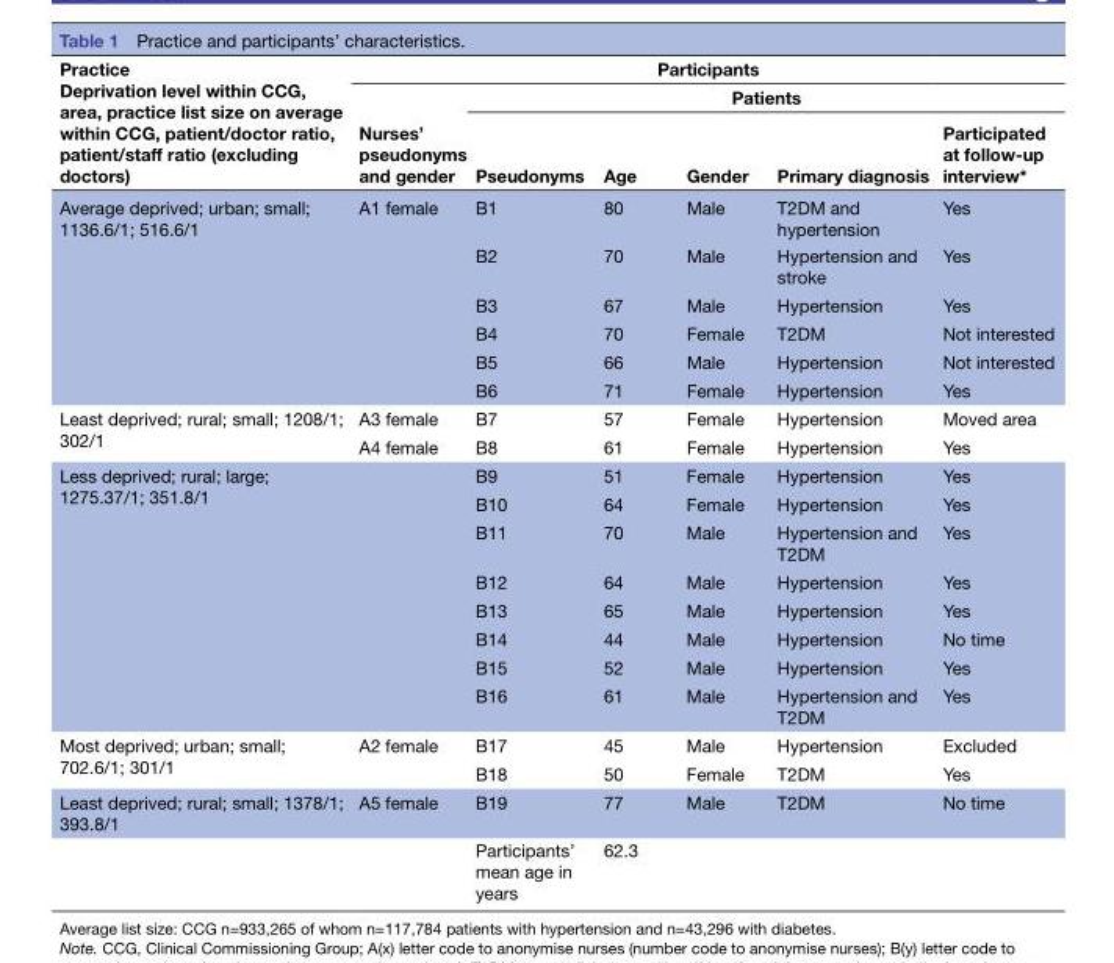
<table><thead><tr><td rowspan="3">Practice Deprivation level within CCG, area, practice list size on average within CCG, patient/doctor ratio, patient/staff ratio (excluding doctors)</td><td colspan="6">Participants</td></tr><tr><td rowspan="2">Nurses’ pseudonyms and gender</td><td colspan="5">Patients</td></tr><tr><td>Pseudonyms</td><td>Age</td><td>Gender</td><td>Primary diagnosis</td><td>Participated at follow-up interview*</td></tr></thead><tbody><tr><td rowspan="6">Average deprived; urban; small; 1136.6/1; 516.6/1</td><td rowspan="6">A1 female</td><td>B1</td><td>80</td><td>Male</td><td>T2DM and hypertension</td><td>Yes</td></tr><tr><td>B2</td><td>70</td><td>Male</td><td>Hypertension and stroke</td><td>Yes</td></tr><tr><td>B3</td><td>67</td><td>Male</td><td>Hypertension</td><td>Yes</td></tr><tr><td>B4</td><td>70</td><td>Female</td><td>T2DM</td><td>Not interested</td></tr><tr><td>B5</td><td>66</td><td>Male</td><td>Hypertension</td><td>Not interested</td></tr><tr><td>B6</td><td>71</td><td>Female</td><td>Hypertension</td><td>Yes</td></tr><tr><td rowspan="2">Least deprived; rural; small; 1208/1; 302/1</td><td>A3 female</td><td>B7</td><td>57</td><td>Female</td><td>Hypertension</td><td>Moved area</td></tr><tr><td>A4 female</td><td>B8</td><td>61</td><td>Female</td><td>Hypertension</td><td>Yes</td></tr><tr><td rowspan="8">Less deprived; rural; large; 1275.37/1; 351.8/1</td><td rowspan="8"></td><td>B9</td><td>51</td><td>Female</td><td>Hypertension</td><td>Yes</td></tr><tr><td>B10</td><td>64</td><td>Female</td><td>Hypertension</td><td>Yes</td></tr><tr><td>B11</td><td>70</td><td>Male</td><td>Hypertension and T2DM</td><td>Yes</td></tr><tr><td>B12</td><td>64</td><td>Male</td><td>Hypertension</td><td>Yes</td></tr><tr><td>B13</td><td>65</td><td>Male</td><td>Hypertension</td><td>Yes</td></tr><tr><td>B14</td><td>44</td><td>Male</td><td>Hypertension</td><td>No time</td></tr><tr><td>B15</td><td>52</td><td>Male</td><td>Hypertension</td><td>Yes</td></tr><tr><td>B16</td><td>61</td><td>Male</td><td>Hypertension and T2DM</td><td>Yes</td></tr><tr><td rowspan="2">Most deprived; urban; small; 702.6/1; 301/1</td><td rowspan="2">A2 female</td><td>B17</td><td>45</td><td>Male</td><td>Hypertension</td><td>Excluded</td></tr><tr><td>B18</td><td>50</td><td>Female</td><td>T2DM</td><td>Yes</td></tr><tr><td>Least deprived; rural; small; 1378/1; 393.8/1</td><td>A5 female</td><td>B19</td><td>77</td><td>Male</td><td>T2DM</td><td>No time</td></tr><tr><td colspan="2"></td><td>Participants’ mean age in years</td><td>62.3</td><td colspan="3"></td></tr></tbody></table>